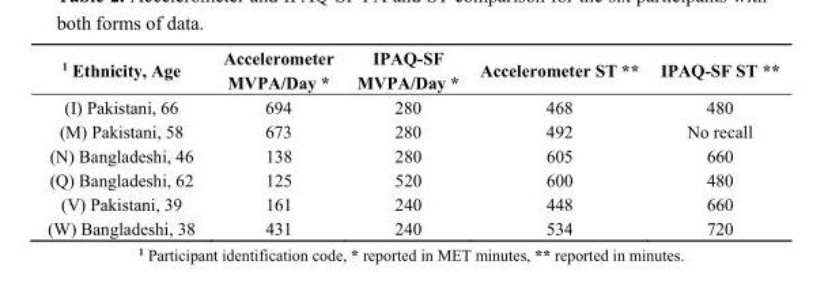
<table><thead><tr><td><sup>1</sup> Ethnicity, Age</td><td>Accelerometer MVPA/Day *</td><td>IPAQ-SF MVPA/Day *</td><td>Accelerometer ST **</td><td>IPAQ-SF ST **</td></tr></thead><tbody><tr><td>(I) Pakistani, 66</td><td>694</td><td>280</td><td>468</td><td>480</td></tr><tr><td>(M) Pakistani, 58</td><td>673</td><td>280</td><td>492</td><td>No recall</td></tr><tr><td>(N) Bangladeshi, 46</td><td>138</td><td>280</td><td>605</td><td>660</td></tr><tr><td>(Q) Bangladeshi, 62</td><td>125</td><td>520</td><td>600</td><td>480</td></tr><tr><td>(V) Pakistani, 39</td><td>161</td><td>240</td><td>448</td><td>660</td></tr><tr><td>(W) Bangladeshi, 38</td><td>431</td><td>240</td><td>534</td><td>720</td></tr></tbody></table>